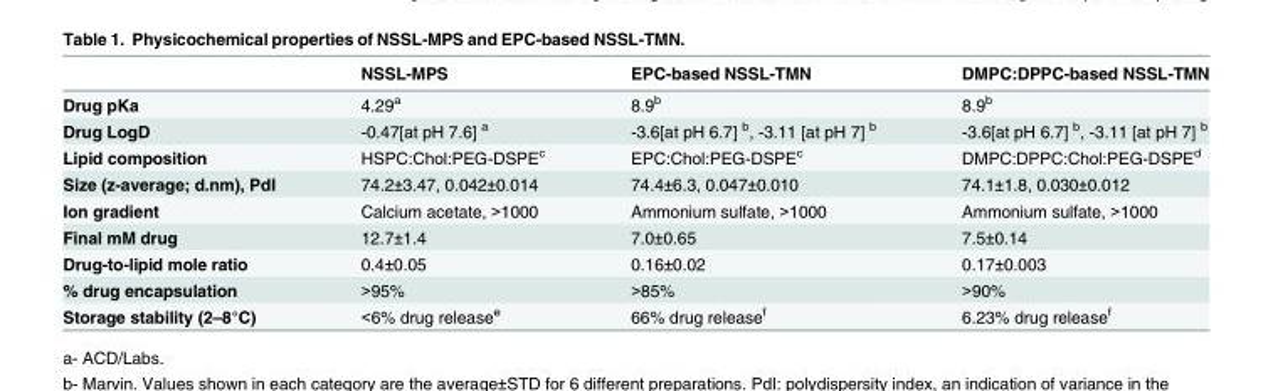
<table><thead><tr><td></td><td>NSSL-MPS</td><td>EPC-based NSSL-TMN</td><td>DMPC:DPPC-based NSSL-TMN</td></tr></thead><tbody><tr><td>Drug pKa</td><td>4.29<sup>a</sup></td><td>8.9<sup>b</sup></td><td>8.9<sup>b</sup></td></tr><tr><td>Drug LogD</td><td>-0.47[at pH 7.6] <sup>a</sup></td><td>-3.6[at pH 6.7] <sup>b</sup>, -3.11 [at pH 7] <sup>b</sup></td><td>-3.6[at pH 6.7] <sup>b</sup>, -3.11 [at pH 7] <sup>b</sup></td></tr><tr><td>Lipid composition</td><td>HSPC:Chol:PEG-DSPE<sup>c</sup></td><td>EPC:Chol:PEG-DSPE<sup>c</sup></td><td>DMPC:DPPC:Chol:PEG-DSPE<sup>d</sup></td></tr><tr><td>Size (z-average; d.nm), PdI</td><td>74.2±3.47, 0.042±0.014</td><td>74.4±6.3, 0.047±0.010</td><td>74.1±1.8, 0.030±0.012</td></tr><tr><td>Ion gradient</td><td>Calcium acetate, &gt;1000</td><td>Ammonium sulfate, &gt;1000</td><td>Ammonium sulfate, &gt;1000</td></tr><tr><td>Final mM drug</td><td>12.7±1.4</td><td>7.0±0.65</td><td>7.5±0.14</td></tr><tr><td>Drug-to-lipid mole ratio</td><td>0.4±0.05</td><td>0.16±0.02</td><td>0.17±0.003</td></tr><tr><td>% drug encapsulation</td><td>&gt;95%</td><td>&gt;85%</td><td>&gt;90%</td></tr><tr><td>Storage stability (2–8°C)</td><td>&lt;6% drug release<sup>e</sup></td><td>66% drug release<sup>f</sup></td><td>6.23% drug release<sup>f</sup></td></tr></tbody></table>